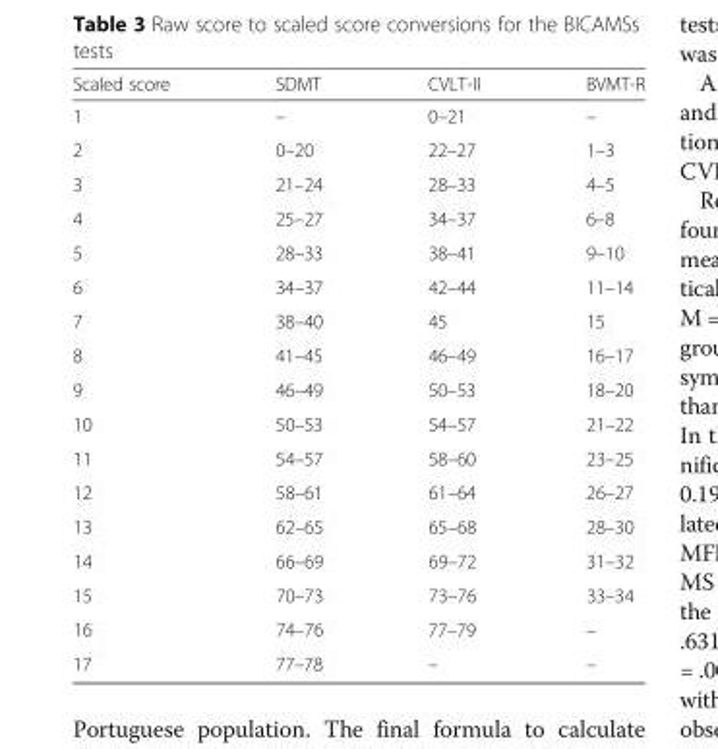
<table><thead><tr><td>Scaled score</td><td>SDMT</td><td>CVLT-II</td><td>BVMT-R</td></tr></thead><tbody><tr><td>1</td><td>–</td><td>0–21</td><td>–</td></tr><tr><td>2</td><td>0–20</td><td>22–27</td><td>1–3</td></tr><tr><td>3</td><td>21–24</td><td>28–33</td><td>4–5</td></tr><tr><td>4</td><td>25–27</td><td>34–37</td><td>6–8</td></tr><tr><td>5</td><td>28–33</td><td>38–41</td><td>9–10</td></tr><tr><td>6</td><td>34–37</td><td>42–44</td><td>11–14</td></tr><tr><td>7</td><td>38–40</td><td>45</td><td>15</td></tr><tr><td>8</td><td>41–45</td><td>46–49</td><td>16–17</td></tr><tr><td>9</td><td>46–49</td><td>50–53</td><td>18–20</td></tr><tr><td>10</td><td>50–53</td><td>54–57</td><td>21–22</td></tr><tr><td>11</td><td>54–57</td><td>58–60</td><td>23–25</td></tr><tr><td>12</td><td>58–61</td><td>61–64</td><td>26–27</td></tr><tr><td>13</td><td>62–65</td><td>65–68</td><td>28–30</td></tr><tr><td>14</td><td>66–69</td><td>69–72</td><td>31–32</td></tr><tr><td>15</td><td>70–73</td><td>73–76</td><td>33–34</td></tr><tr><td>16</td><td>74–76</td><td>77–79</td><td>–</td></tr><tr><td>17</td><td>77–78</td><td>–</td><td>–</td></tr></tbody></table>